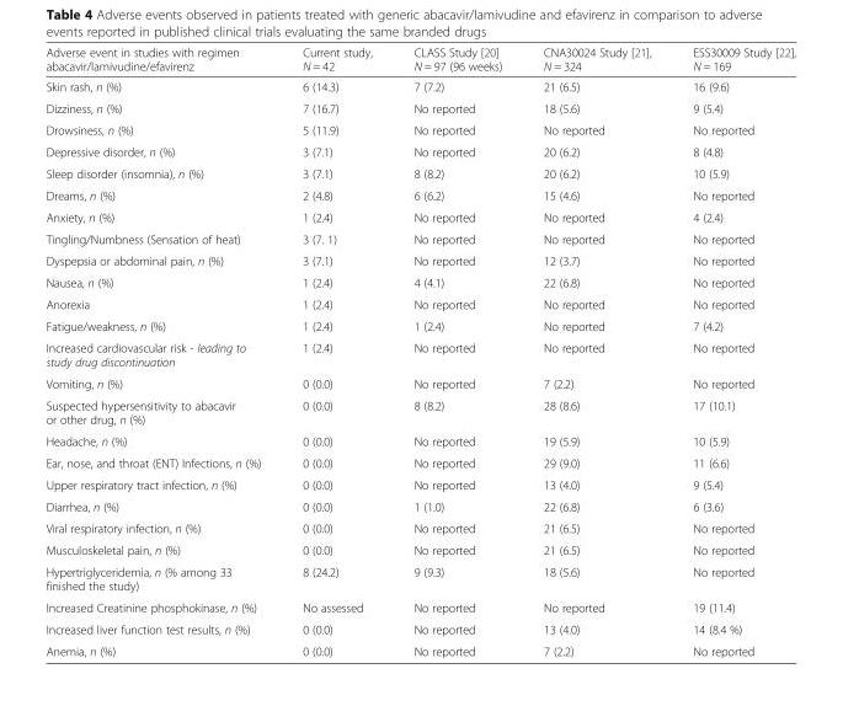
<table><thead><tr><td>Adverse event in studies with regimen abacavir/lamivudine/efavirenz</td><td>Current study, N = 42</td><td>CLASS Study [20] N = 97 (96 weeks)</td><td>CNA30024 Study [21], N = 324</td><td>ESS30009 Study [22], N = 169</td></tr></thead><tbody><tr><td>Skin rash, n (%)</td><td>6 (14.3)</td><td>7 (7.2)</td><td>21 (6.5)</td><td>16 (9.6)</td></tr><tr><td>Dizziness, n (%)</td><td>7 (16.7)</td><td>No reported</td><td>18 (5.6)</td><td>9 (5.4)</td></tr><tr><td>Drowsiness, n (%)</td><td>5 (11.9)</td><td>No reported</td><td>No reported</td><td>No reported</td></tr><tr><td>Depressive disorder, n (%)</td><td>3 (7.1)</td><td>No reported</td><td>20 (6.2)</td><td>8 (4.8)</td></tr><tr><td>Sleep disorder (insomnia), n (%)</td><td>3 (7.1)</td><td>8 (8.2)</td><td>20 (6.2)</td><td>10 (5.9)</td></tr><tr><td>Dreams, n (%)</td><td>2 (4.8)</td><td>6 (6.2)</td><td>15 (4.6)</td><td>No reported</td></tr><tr><td>Anxiety, n (%)</td><td>1 (2.4)</td><td>No reported</td><td>No reported</td><td>4 (2.4)</td></tr><tr><td>Tingling/Numbness (Sensation of heat)</td><td>3 (7. 1)</td><td>No reported</td><td>No reported</td><td>No reported</td></tr><tr><td>Dyspepsia or abdominal pain, n (%)</td><td>3 (7.1)</td><td>No reported</td><td>12 (3.7)</td><td>No reported</td></tr><tr><td>Nausea, n (%)</td><td>1 (2.4)</td><td>4 (4.1)</td><td>22 (6.8)</td><td>No reported</td></tr><tr><td>Anorexia</td><td>1 (2.4)</td><td>No reported</td><td>No reported</td><td>No reported</td></tr><tr><td>Fatigue/weakness, n (%)</td><td>1 (2.4)</td><td>1 (2.4)</td><td>No reported</td><td>7 (4.2)</td></tr><tr><td>Increased cardiovascular risk - leading to study drug discontinuation</td><td>1 (2.4)</td><td>No reported</td><td>No reported</td><td>No reported</td></tr><tr><td>Vomiting, n (%)</td><td>0 (0.0)</td><td>No reported</td><td>7 (2.2)</td><td>No reported</td></tr><tr><td>Suspected hypersensitivity to abacavir or other drug, n (%)</td><td>0 (0.0)</td><td>8 (8.2)</td><td>28 (8.6)</td><td>17 (10.1)</td></tr><tr><td>Headache, n (%)</td><td>0 (0.0)</td><td>No reported</td><td>19 (5.9)</td><td>10 (5.9)</td></tr><tr><td>Ear, nose, and throat (ENT) Infections, n (%)</td><td>0 (0.0)</td><td>No reported</td><td>29 (9.0)</td><td>11 (6.6)</td></tr><tr><td>Upper respiratory tract infection, n (%)</td><td>0 (0.0)</td><td>No reported</td><td>13 (4.0)</td><td>9 (5.4)</td></tr><tr><td>Diarrhea, n (%)</td><td>0 (0.0)</td><td>1 (1.0)</td><td>22 (6.8)</td><td>6 (3.6)</td></tr><tr><td>Viral respiratory infection, n (%)</td><td>0 (0.0)</td><td>No reported</td><td>21 (6.5)</td><td>No reported</td></tr><tr><td>Musculoskeletal pain, n (%)</td><td>0 (0.0)</td><td>No reported</td><td>21 (6.5)</td><td>No reported</td></tr><tr><td>Hypertriglyceridemia, n (% among 33 finished the study)</td><td>8 (24.2)</td><td>9 (9.3)</td><td>18 (5.6)</td><td>No reported</td></tr><tr><td>Increased Creatinine phosphokinase, n (%)</td><td>No assessed</td><td>No reported</td><td>No reported</td><td>19 (11.4)</td></tr><tr><td>Increased liver function test results, n (%)</td><td>0 (0.0)</td><td>No reported</td><td>13 (4.0)</td><td>14 (8.4 %)</td></tr><tr><td>Anemia, n (%)</td><td>0 (0.0)</td><td>No reported</td><td>7 (2.2)</td><td>No reported</td></tr></tbody></table>